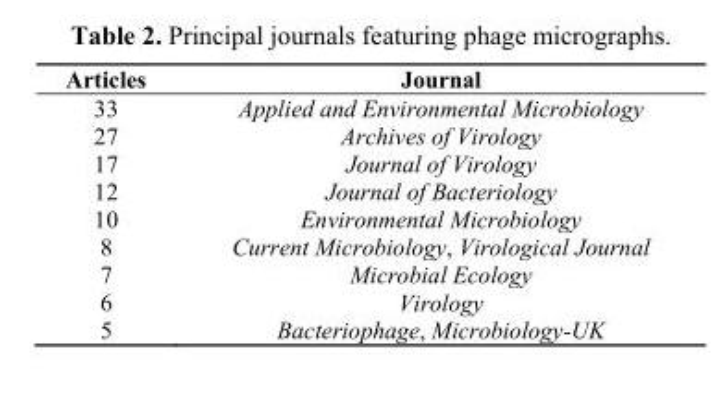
<table><thead><tr><td>Articles</td><td>Journal</td></tr></thead><tbody><tr><td>33</td><td>Applied and Environmental Microbiology</td></tr><tr><td>27</td><td>Archives of Virology</td></tr><tr><td>17</td><td>Journal of Virology</td></tr><tr><td>12</td><td>Journal of Bacteriology</td></tr><tr><td>10</td><td>Environmental Microbiology</td></tr><tr><td>8</td><td>Current Microbiology, Virological Journal</td></tr><tr><td>7</td><td>Microbial Ecology</td></tr><tr><td>6</td><td>Virology</td></tr><tr><td>5</td><td>Bacteriophage, Microbiology-UK</td></tr></tbody></table>